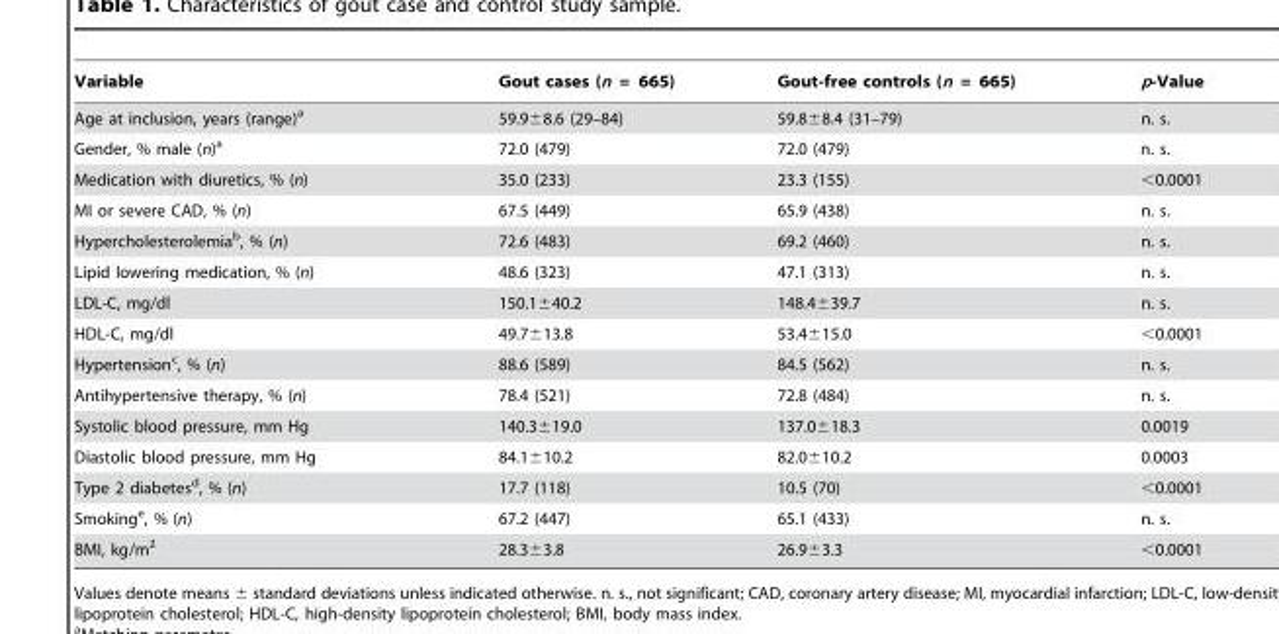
<table><thead><tr><td>Variable</td><td>Gout cases (n = 665)</td><td>Gout-free controls (n = 665)</td><td>p-Value</td></tr></thead><tbody><tr><td>Age at inclusion, years (range)<sup>a</sup></td><td>59.9±8.6 (29–84)</td><td>59.8±8.4 (31–79)</td><td>n. s.</td></tr><tr><td>Gender, % male (n)<sup>a</sup></td><td>72.0 (479)</td><td>72.0 (479)</td><td>n. s.</td></tr><tr><td>Medication with diuretics, % (n)</td><td>35.0 (233)</td><td>23.3 (155)</td><td>&lt;0.0001</td></tr><tr><td>MI or severe CAD, % (n)</td><td>67.5 (449)</td><td>65.9 (438)</td><td>n. s.</td></tr><tr><td>Hypercholesterolemia<sup>b</sup>, % (n)</td><td>72.6 (483)</td><td>69.2 (460)</td><td>n. s.</td></tr><tr><td>Lipid lowering medication, % (n)</td><td>48.6 (323)</td><td>47.1 (313)</td><td>n. s.</td></tr><tr><td>LDL-C, mg/dl</td><td>150.1±40.2</td><td>148.4±39.7</td><td>n. s.</td></tr><tr><td>HDL-C, mg/dl</td><td>49.7±13.8</td><td>53.4±15.0</td><td>&lt;0.0001</td></tr><tr><td>Hypertension<sup>c</sup>, % (n)</td><td>88.6 (589)</td><td>84.5 (562)</td><td>n. s.</td></tr><tr><td>Antihypertensive therapy, % (n)</td><td>78.4 (521)</td><td>72.8 (484)</td><td>n. s.</td></tr><tr><td>Systolic blood pressure, mm Hg</td><td>140.3±19.0</td><td>137.0±18.3</td><td>0.0019</td></tr><tr><td>Diastolic blood pressure, mm Hg</td><td>84.1±10.2</td><td>82.0±10.2</td><td>0.0003</td></tr><tr><td>Type 2 diabetes<sup>d</sup>, % (n)</td><td>17.7 (118)</td><td>10.5 (70)</td><td>&lt;0.0001</td></tr><tr><td>Smoking<sup>e</sup>, % (n)</td><td>67.2 (447)</td><td>65.1 (433)</td><td>n. s.</td></tr><tr><td>BMI, kg/m<sup>2</sup></td><td>28.3±3.8</td><td>26.9±3.3</td><td>&lt;0.0001</td></tr></tbody></table>